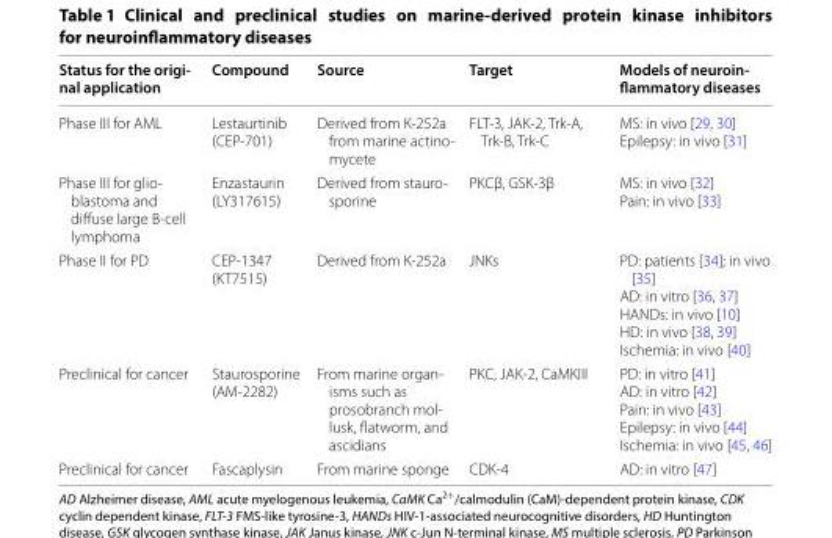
<table><thead><tr><td>Status for the origi- nal application</td><td>Compound</td><td>Source</td><td>Target</td><td>Models of neuroin- flammatory diseases</td></tr></thead><tbody><tr><td>Phase III for AML</td><td>Lestaurtinib (CEP‑701)</td><td>Derived from K‑252a from marine actino‑ mycete</td><td>FLT‑3, JAK‑2, Trk‑A, Trk‑B, Trk‑C</td><td>MS: in vivo [29, 30] Epilepsy: in vivo [31]</td></tr><tr><td>Phase III for glio‑ blastoma and diffuse large B‑cell lymphoma</td><td>Enzastaurin (LY317615)</td><td>Derived from stauro‑ sporine</td><td>PKCβ, GSK‑3β</td><td>MS: in vivo [32] Pain: in vivo [33]</td></tr><tr><td>Phase II for PD</td><td>CEP‑1347 (KT7515)</td><td>Derived from K‑252a</td><td>JNKs</td><td>PD: patients [34]; in vivo [35] AD: in vitro [36, 37] HANDs: in vivo [10] HD: in vivo [38, 39] Ischemia: in vivo [40]</td></tr><tr><td>Preclinical for cancer</td><td>Staurosporine (AM‑2282)</td><td>From marine organ‑ isms such as prosobranch mol‑ lusk, flatworm, and ascidians</td><td>PKC, JAK‑2, CaMKIII</td><td>PD: in vitro [41] AD: in vitro [42] Pain: in vivo [43] Epilepsy: in vivo [44] Ischemia: in vivo [45, 46]</td></tr><tr><td>Preclinical for cancer</td><td>Fascaplysin</td><td>From marine sponge</td><td>CDK‑4</td><td>AD: in vitro [47]</td></tr></tbody></table>